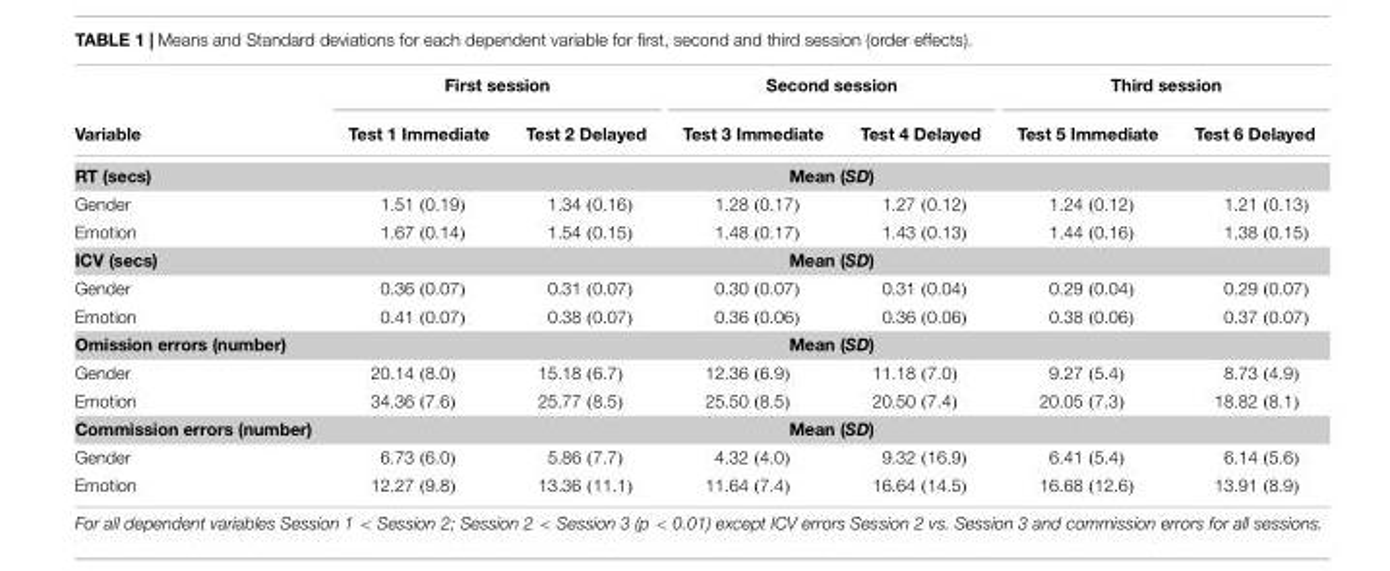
<table><thead><tr><td rowspan="2">Variable</td><td colspan="2">First session</td><td colspan="2">Second session</td><td colspan="2">Third session</td></tr><tr><td>Test 1 Immediate</td><td>Test 2 Delayed</td><td>Test 3 Immediate</td><td>Test 4 Delayed</td><td>Test 5 Immediate</td><td>Test 6 Delayed</td></tr></thead><tbody><tr><td>RT (secs)</td><td colspan="6">Mean (SD)</td></tr><tr><td>Gender</td><td>1.51 (0.19)</td><td>1.34 (0.16)</td><td>1.28 (0.17)</td><td>1.27 (0.12)</td><td>1.24 (0.12)</td><td>1.21 (0.13)</td></tr><tr><td>Emotion</td><td>1.67 (0.14)</td><td>1.54 (0.15)</td><td>1.48 (0.17)</td><td>1.43 (0.13)</td><td>1.44 (0.16)</td><td>1.38 (0.15)</td></tr><tr><td>ICV (secs)</td><td colspan="6">Mean (SD)</td></tr><tr><td>Gender</td><td>0.36 (0.07)</td><td>0.31 (0.07)</td><td>0.30 (0.07)</td><td>0.31 (0.04)</td><td>0.29 (0.04)</td><td>0.29 (0.07)</td></tr><tr><td>Emotion</td><td>0.41 (0.07)</td><td>0.38 (0.07)</td><td>0.36 (0.06)</td><td>0.36 (0.06)</td><td>0.38 (0.06)</td><td>0.37 (0.07)</td></tr><tr><td>Omission errors (number)</td><td colspan="6">Mean (SD)</td></tr><tr><td>Gender</td><td>20.14 (8.0)</td><td>15.18 (6.7)</td><td>12.36 (6.9)</td><td>11.18 (7.0)</td><td>9.27 (5.4)</td><td>8.73 (4.9)</td></tr><tr><td>Emotion</td><td>34.36 (7.6)</td><td>25.77 (8.5)</td><td>25.50 (8.5)</td><td>20.50 (7.4)</td><td>20.05 (7.3)</td><td>18.82 (8.1)</td></tr><tr><td>Commission errors (number)</td><td colspan="6">Mean (SD)</td></tr><tr><td>Gender</td><td>6.73 (6.0)</td><td>5.86 (7.7)</td><td>4.32 (4.0)</td><td>9.32 (16.9)</td><td>6.41 (5.4)</td><td>6.14 (5.6)</td></tr><tr><td>Emotion</td><td>12.27 (9.8)</td><td>13.36 (11.1)</td><td>11.64 (7.4)</td><td>16.64 (14.5)</td><td>16.68 (12.6)</td><td>13.91 (8.9)</td></tr></tbody></table>